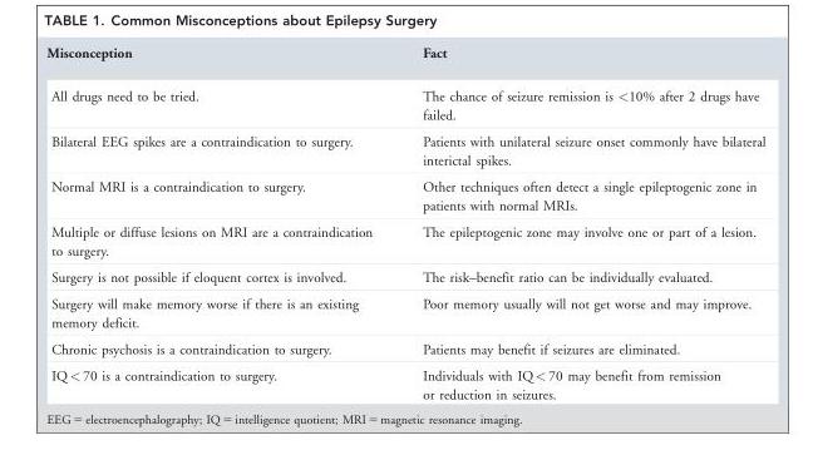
<table><thead><tr><td>Misconception</td><td>Fact</td></tr></thead><tbody><tr><td>All drugs need to be tried.</td><td>The chance of seizure remission is &lt;10% after 2 drugs have failed.</td></tr><tr><td>Bilateral EEG spikes are a contraindication to surgery.</td><td>Patients with unilateral seizure onset commonly have bilateral interictal spikes.</td></tr><tr><td>Normal MRI is a contraindication to surgery.</td><td>Other techniques often detect a single epileptogenic zone in patients with normal MRIs.</td></tr><tr><td>Multiple or diffuse lesions on MRI are a contraindication to surgery.</td><td>The epileptogenic zone may involve one or part of a lesion.</td></tr><tr><td>Surgery is not possible if eloquent cortex is involved.</td><td>The risk–benefit ratio can be individually evaluated.</td></tr><tr><td>Surgery will make memory worse if there is an existing memory deficit.</td><td>Poor memory usually will not get worse and may improve.</td></tr><tr><td>Chronic psychosis is a contraindication to surgery.</td><td>Patients may benefit if seizures are eliminated.</td></tr><tr><td>IQ &lt; 70 is a contraindication to surgery.</td><td>Individuals with IQ &lt; 70 may benefit from remission or reduction in seizures.</td></tr></tbody></table>